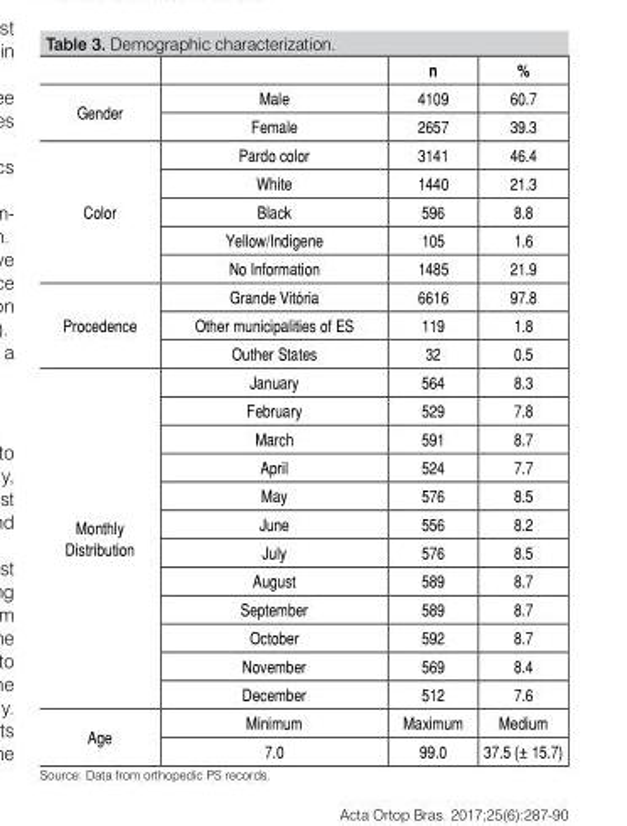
<table><thead><tr><td></td><td></td><td>n</td><td>%</td></tr></thead><tbody><tr><td rowspan="2">Gender</td><td>Male</td><td>4109</td><td>60.7</td></tr><tr><td>Female</td><td>2657</td><td>39.3</td></tr><tr><td rowspan="5">Color</td><td>Pardo color</td><td>3141</td><td>46.4</td></tr><tr><td>White</td><td>1440</td><td>21.3</td></tr><tr><td>Black</td><td>596</td><td>8.8</td></tr><tr><td>Yellow/Indigene</td><td>105</td><td>1.6</td></tr><tr><td>No Information</td><td>1485</td><td>21.9</td></tr><tr><td rowspan="3">Procedence</td><td>Grande Vitória</td><td>6616</td><td>97.8</td></tr><tr><td>Other municipalities of ES</td><td>119</td><td>1.8</td></tr><tr><td>Outher States</td><td>32</td><td>0.5</td></tr><tr><td rowspan="12">Monthly Distribution</td><td>January</td><td>564</td><td>8.3</td></tr><tr><td>February</td><td>529</td><td>7.8</td></tr><tr><td>March</td><td>591</td><td>8.7</td></tr><tr><td>April</td><td>524</td><td>7.7</td></tr><tr><td>May</td><td>576</td><td>8.5</td></tr><tr><td>June</td><td>556</td><td>8.2</td></tr><tr><td>July</td><td>576</td><td>8.5</td></tr><tr><td>August</td><td>589</td><td>8.7</td></tr><tr><td>September</td><td>589</td><td>8.7</td></tr><tr><td>October</td><td>592</td><td>8.7</td></tr><tr><td>November</td><td>569</td><td>8.4</td></tr><tr><td>December</td><td>512</td><td>7.6</td></tr><tr><td rowspan="2">Age</td><td>Minimum</td><td>Maximum</td><td>Medium</td></tr><tr><td>7.0</td><td>99.0</td><td>37.5 (± 15.7)</td></tr></tbody></table>